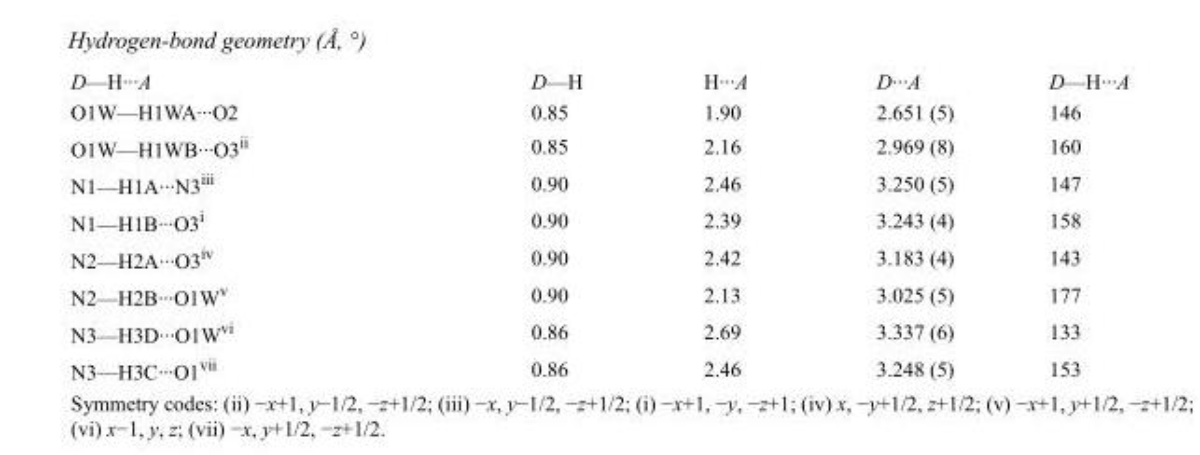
<table><tbody><tr><td>D—H···A</td><td>D—H</td><td>H···A</td><td>D···A</td><td>D—H···A</td></tr><tr><td>O1W—H1WA···O2</td><td>0.85</td><td>1.90</td><td>2.651 (5)</td><td>146</td></tr><tr><td>O1W—H1WB···O3<sup>ii</sup></td><td>0.85</td><td>2.16</td><td>2.969 (8)</td><td>160</td></tr><tr><td>N1—H1A···N3<sup>iii</sup></td><td>0.90</td><td>2.46</td><td>3.250 (5)</td><td>147</td></tr><tr><td>N1—H1B···O3<sup>i</sup></td><td>0.90</td><td>2.39</td><td>3.243 (4)</td><td>158</td></tr><tr><td>N2—H2A···O3<sup>iv</sup></td><td>0.90</td><td>2.42</td><td>3.183 (4)</td><td>143</td></tr><tr><td>N2—H2B···O1W<sup>v</sup></td><td>0.90</td><td>2.13</td><td>3.025 (5)</td><td>177</td></tr><tr><td>N3—H3D···O1W<sup>vi</sup></td><td>0.86</td><td>2.69</td><td>3.337 (6)</td><td>133</td></tr><tr><td>N3—H3C···O1<sup>vii</sup></td><td>0.86</td><td>2.46</td><td>3.248 (5)</td><td>153</td></tr></tbody></table>